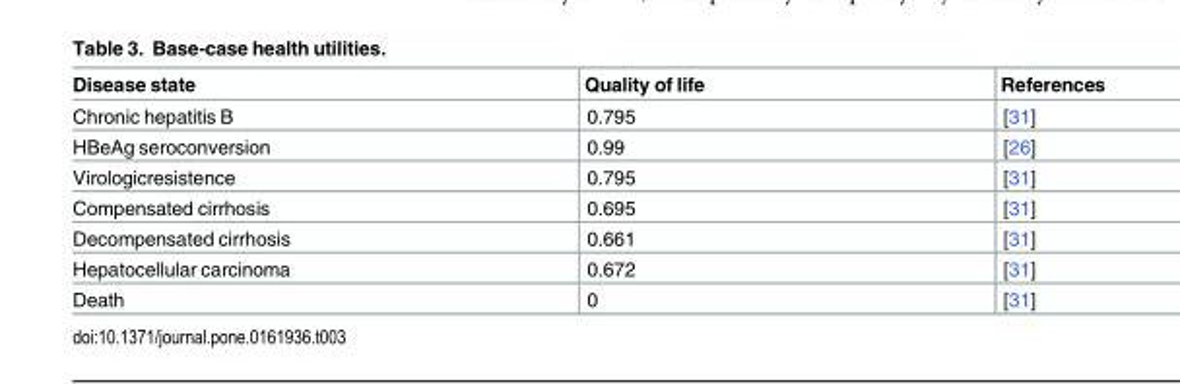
<table><thead><tr><td>Disease state</td><td>Quality of life</td><td>References</td></tr></thead><tbody><tr><td>Chronic hepatitis B</td><td>0.795</td><td>[31]</td></tr><tr><td>HBeAg seroconversion</td><td>0.99</td><td>[26]</td></tr><tr><td>Virologicresistence</td><td>0.795</td><td>[31]</td></tr><tr><td>Compensated cirrhosis</td><td>0.695</td><td>[31]</td></tr><tr><td>Decompensated cirrhosis</td><td>0.661</td><td>[31]</td></tr><tr><td>Hepatocellular carcinoma</td><td>0.672</td><td>[31]</td></tr><tr><td>Death</td><td>0</td><td>[31]</td></tr></tbody></table>